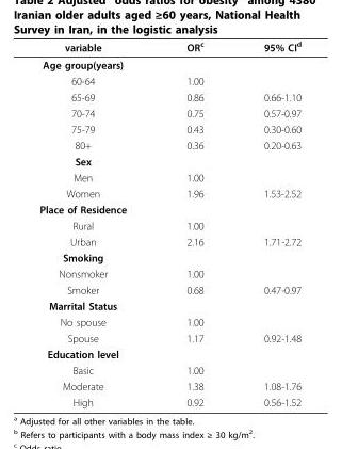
<table><thead><tr><td>variable</td><td>OR<sup>c</sup></td><td>95% CI<sup>d</sup></td></tr></thead><tbody><tr><td colspan="3">Age group(years)</td></tr><tr><td>60-64</td><td>1.00</td><td></td></tr><tr><td>65-69</td><td>0.86</td><td>0.66-1.10</td></tr><tr><td>70-74</td><td>0.75</td><td>0.57-0.97</td></tr><tr><td>75-79</td><td>0.43</td><td>0.30-0.60</td></tr><tr><td>80+</td><td>0.36</td><td>0.20-0.63</td></tr><tr><td colspan="3">Sex</td></tr><tr><td>Men</td><td>1.00</td><td></td></tr><tr><td>Women</td><td>1.96</td><td>1.53-2.52</td></tr><tr><td colspan="3">Place of Residence</td></tr><tr><td>Rural</td><td>1.00</td><td></td></tr><tr><td>Urban</td><td>2.16</td><td>1.71-2.72</td></tr><tr><td colspan="3">Smoking</td></tr><tr><td>Nonsmoker</td><td>1.00</td><td></td></tr><tr><td>Smoker</td><td>0.68</td><td>0.47-0.97</td></tr><tr><td colspan="3">Marrital Status</td></tr><tr><td>No spouse</td><td>1.00</td><td></td></tr><tr><td>Spouse</td><td>1.17</td><td>0.92-1.48</td></tr><tr><td colspan="3">Education level</td></tr><tr><td>Basic</td><td>1.00</td><td></td></tr><tr><td>Moderate</td><td>1.38</td><td>1.08-1.76</td></tr><tr><td>High</td><td>0.92</td><td>0.56-1.52</td></tr></tbody></table>